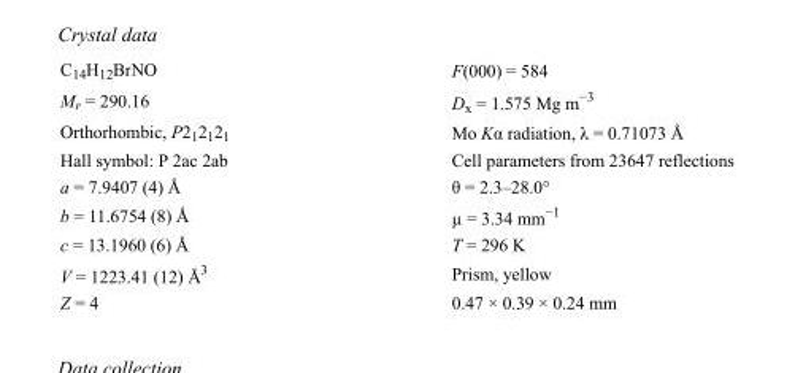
<table><tbody><tr><td>C<sub>14</sub>H<sub>12</sub>BrNO</td><td>F(000) = 584</td></tr><tr><td>M<sub>r</sub> = 290.16</td><td>D<sub>x</sub> = 1.575 Mg m<sup>−3</sup></td></tr><tr><td>Orthorhombic, P2<sub>1</sub>2<sub>1</sub>2<sub>1</sub></td><td>Mo Kα radiation, λ = 0.71073 Å</td></tr><tr><td>Hall symbol: P 2ac 2ab</td><td>Cell parameters from 23647 reflections</td></tr><tr><td>a = 7.9407 (4) Å</td><td>θ = 2.3–28.0°</td></tr><tr><td>b = 11.6754 (8) Å</td><td>µ = 3.34 mm<sup>−1</sup></td></tr><tr><td>c = 13.1960 (6) Å</td><td>T = 296 K</td></tr><tr><td>V = 1223.41 (12) Å<sup>3</sup></td><td>Prism, yellow</td></tr><tr><td>Z = 4</td><td>0.47 × 0.39 × 0.24 mm</td></tr></tbody></table>